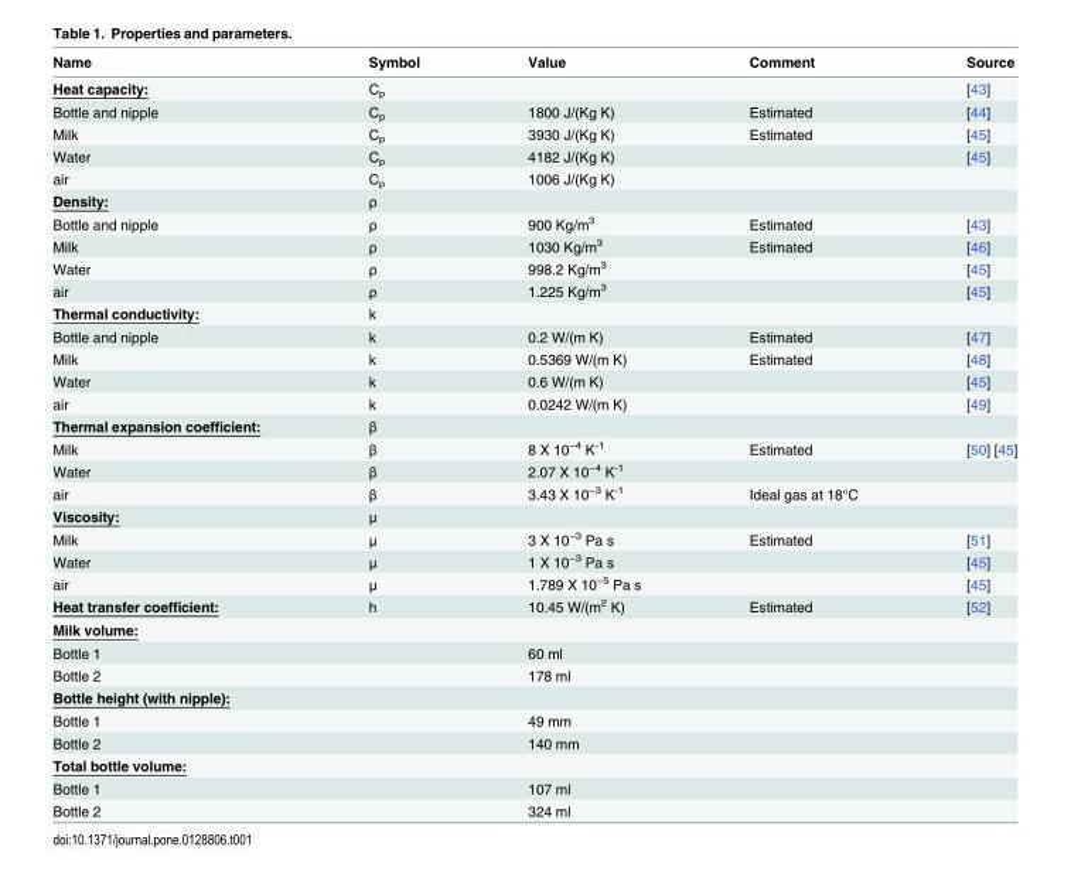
<table><thead><tr><td>Name</td><td>Symbol</td><td>Value</td><td>Comment</td><td>Source</td></tr></thead><tbody><tr><td>Heat capacity:</td><td>C<sub>p</sub></td><td></td><td></td><td>[43]</td></tr><tr><td>Bottle and nipple</td><td>C<sub>p</sub></td><td>1800 J/(Kg K)</td><td>Estimated</td><td>[44]</td></tr><tr><td>Milk</td><td>C<sub>p</sub></td><td>3930 J/(Kg K)</td><td>Estimated</td><td>[45]</td></tr><tr><td>Water</td><td>C<sub>p</sub></td><td>4182 J/(Kg K)</td><td></td><td>[45]</td></tr><tr><td>air</td><td>C<sub>p</sub></td><td>1006 J/(Kg K)</td><td></td><td></td></tr><tr><td>Density:</td><td>ρ</td><td></td><td></td><td></td></tr><tr><td>Bottle and nipple</td><td>ρ</td><td>900 Kg/m<sup>3</sup></td><td>Estimated</td><td>[43]</td></tr><tr><td>Milk</td><td>ρ</td><td>1030 Kg/m<sup>3</sup></td><td>Estimated</td><td>[46]</td></tr><tr><td>Water</td><td>ρ</td><td>998.2 Kg/m<sup>3</sup></td><td></td><td>[45]</td></tr><tr><td>air</td><td>ρ</td><td>1.225 Kg/m<sup>3</sup></td><td></td><td>[45]</td></tr><tr><td>Thermal conductivity:</td><td>k</td><td></td><td></td><td></td></tr><tr><td>Bottle and nipple</td><td>k</td><td>0.2 W/(m K)</td><td>Estimated</td><td>[47]</td></tr><tr><td>Milk</td><td>k</td><td>0.5369 W/(m K)</td><td>Estimated</td><td>[48]</td></tr><tr><td>Water</td><td>k</td><td>0.6 W/(m K)</td><td></td><td>[45]</td></tr><tr><td>air</td><td>k</td><td>0.0242 W/(m K)</td><td></td><td>[49]</td></tr><tr><td>Thermal expansion coefficient:</td><td>β</td><td></td><td></td><td></td></tr><tr><td>Milk</td><td>β</td><td>8 X 10<sup>−4</sup> K<sup>-1</sup></td><td>Estimated</td><td>[50] [45]</td></tr><tr><td>Water</td><td>β</td><td>2.07 X 10<sup>−4</sup> K<sup>-1</sup></td><td></td><td></td></tr><tr><td>air</td><td>β</td><td>3.43 X 10<sup>−3</sup> K<sup>-1</sup></td><td>Ideal gas at 18°C</td><td></td></tr><tr><td>Viscosity:</td><td>μ</td><td></td><td></td><td></td></tr><tr><td>Milk</td><td>μ</td><td>3 X 10<sup>−3</sup> Pa s</td><td>Estimated</td><td>[51]</td></tr><tr><td>Water</td><td>μ</td><td>1 X 10<sup>−3</sup> Pa s</td><td></td><td>[45]</td></tr><tr><td>air</td><td>μ</td><td>1.789 X 10<sup>−5</sup> Pa s</td><td></td><td>[45]</td></tr><tr><td>Heat transfer coefficient:</td><td>h</td><td>10.45 W/(m<sup>2</sup> K)</td><td>Estimated</td><td>[52]</td></tr><tr><td colspan="5">Milk volume:</td></tr><tr><td>Bottle 1</td><td></td><td>60 ml</td><td></td><td></td></tr><tr><td>Bottle 2</td><td></td><td>178 ml</td><td></td><td></td></tr><tr><td colspan="5">Bottle height (with nipple):</td></tr><tr><td>Bottle 1</td><td></td><td>49 mm</td><td></td><td></td></tr><tr><td>Bottle 2</td><td></td><td>140 mm</td><td></td><td></td></tr><tr><td colspan="5">Total bottle volume:</td></tr><tr><td>Bottle 1</td><td></td><td>107 ml</td><td></td><td></td></tr><tr><td>Bottle 2</td><td></td><td>324 ml</td><td></td><td></td></tr></tbody></table>